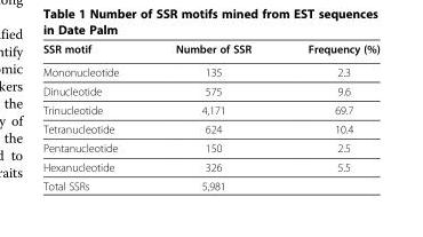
<table><thead><tr><td>SSR motif</td><td>Number of SSR</td><td>Frequency (%)</td></tr></thead><tbody><tr><td>Mononucleotide</td><td>135</td><td>2.3</td></tr><tr><td>Dinucleotide</td><td>575</td><td>9.6</td></tr><tr><td>Trinucleotide</td><td>4,171</td><td>69.7</td></tr><tr><td>Tetranucleotide</td><td>624</td><td>10.4</td></tr><tr><td>Pentanucleotide</td><td>150</td><td>2.5</td></tr><tr><td>Hexanucleotide</td><td>326</td><td>5.5</td></tr><tr><td>Total SSRs</td><td>5,981</td><td></td></tr></tbody></table>